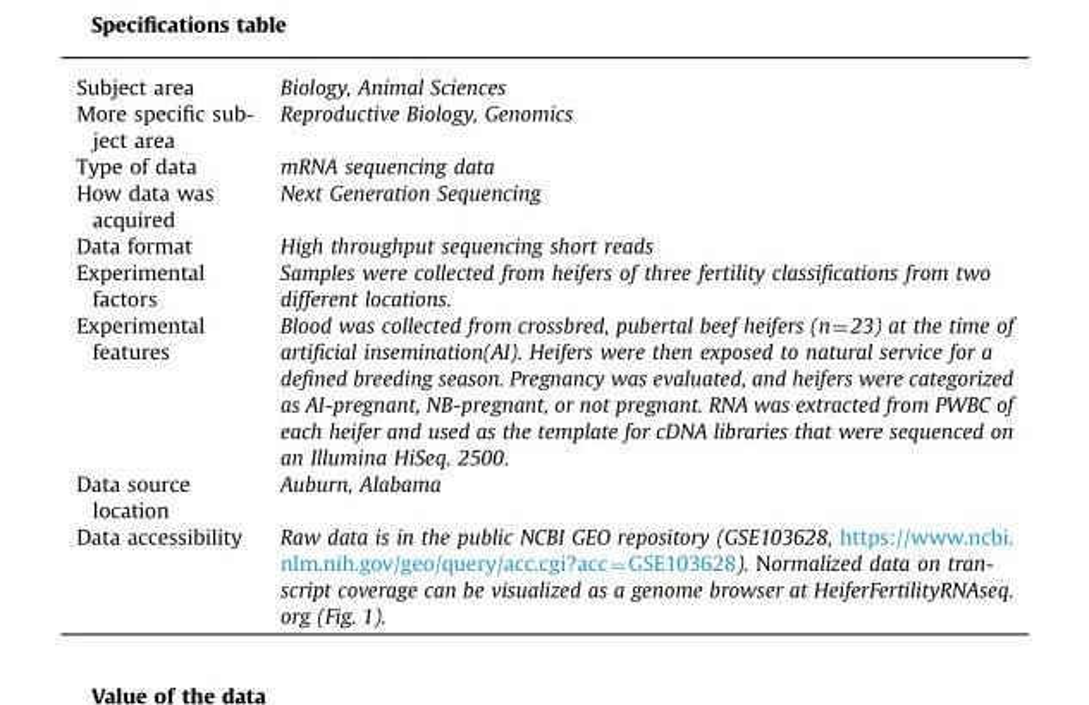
<table><tbody><tr><td>Subject area</td><td>Biology, Animal Sciences</td></tr><tr><td>More specific sub- ject area</td><td>Reproductive Biology, Genomics</td></tr><tr><td>Type of data</td><td>mRNA sequencing data</td></tr><tr><td>How data was acquired</td><td>Next Generation Sequencing</td></tr><tr><td>Data format</td><td>High throughput sequencing short reads</td></tr><tr><td>Experimental factors</td><td>Samples were collected from heifers of three fertility classifications from two different locations.</td></tr><tr><td>Experimental features</td><td>Blood was collected from crossbred, pubertal beef heifers (n=23) at the time of artificial insemination(AI). Heifers were then exposed to natural service for a defined breeding season. Pregnancy was evaluated, and heifers were categorized as AI-pregnant, NB-pregnant, or not pregnant. RNA was extracted from PWBC of each heifer and used as the template for cDNA libraries that were sequenced on an Illumina HiSeq. 2500.</td></tr><tr><td>Data source location</td><td>Auburn, Alabama</td></tr><tr><td>Data accessibility</td><td>Raw data is in the public NCBI GEO repository (GSE103628, https://www.ncbi. nlm.nih.gov/geo/query/acc.cgi?acc¼GSE103628). Normalized data on tran- script coverage can be visualized as a genome browser at HeiferFertilityRNAseq. org (Fig. 1).</td></tr></tbody></table>